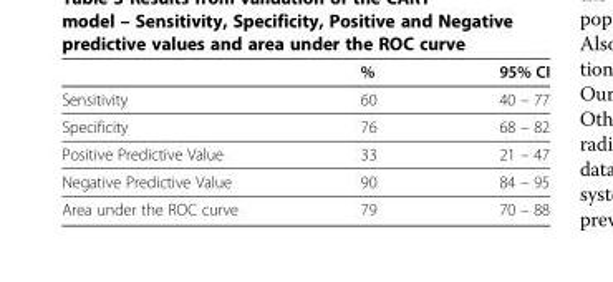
<table><thead><tr><td></td><td>%</td><td>95% CI</td></tr></thead><tbody><tr><td>Sensitivity</td><td>60</td><td>40 – 77</td></tr><tr><td>Specificity</td><td>76</td><td>68 – 82</td></tr><tr><td>Positive Predictive Value</td><td>33</td><td>21 – 47</td></tr><tr><td>Negative Predictive Value</td><td>90</td><td>84 – 95</td></tr><tr><td>Area under the ROC curve</td><td>79</td><td>70 – 88</td></tr></tbody></table>